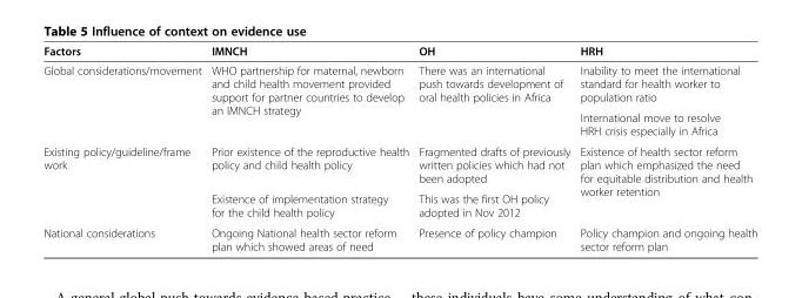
<table><thead><tr><td>Factors</td><td>IMNCH</td><td>OH</td><td>HRH</td></tr></thead><tbody><tr><td rowspan="2">Global considerations/movement</td><td rowspan="2">WHO partnership for maternal, newborn and child health movement provided support for partner countries to develop an IMNCH strategy</td><td rowspan="2">There was an international push towards development of oral health policies in Africa</td><td>Inability to meet the international standard for health worker to population ratio</td></tr><tr><td>International move to resolve HRH crisis especially in Africa</td></tr><tr><td rowspan="2">Existing policy/guideline/frame work</td><td>Prior existence of the reproductive health policy and child health policy</td><td>Fragmented drafts of previously written policies which had not been adopted</td><td rowspan="2">Existence of health sector reform plan which emphasized the need for equitable distribution and health worker retention</td></tr><tr><td>Existence of implementation strategy for the child health policy</td><td>This was the first OH policy adopted in Nov 2012</td></tr><tr><td>National considerations</td><td>Ongoing National health sector reform plan which showed areas of need</td><td>Presence of policy champion</td><td>Policy champion and ongoing health sector reform plan</td></tr></tbody></table>